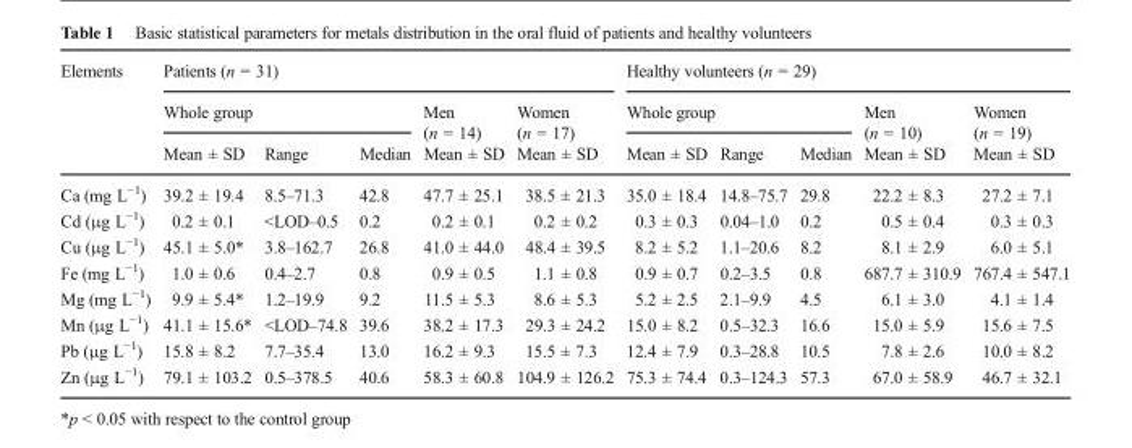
<table><thead><tr><td rowspan="3">Elements</td><td colspan="5">Patients (n = 31)</td><td colspan="5">Healthy volunteers (n = 29)</td></tr><tr><td colspan="3">Whole group</td><td rowspan="2">Men (n = 14) Mean ± SD</td><td rowspan="2">Women (n = 17) Mean ± SD</td><td colspan="3">Whole group</td><td rowspan="2">Men (n = 10) Mean ± SD</td><td rowspan="2">Women (n = 19) Mean ± SD</td></tr><tr><td>Mean ± SD</td><td>Range</td><td>Median</td><td>Mean ± SD</td><td>Range</td><td>Median</td></tr></thead><tbody><tr><td>Ca (mg L<sup>−1</sup>)</td><td>39.2 ± 19.4</td><td>8.5–71.3</td><td>42.8</td><td>47.7 ± 25.1</td><td>38.5 ± 21.3</td><td>35.0 ± 18.4</td><td>14.8–75.7</td><td>29.8</td><td>22.2 ± 8.3</td><td>27.2 ± 7.1</td></tr><tr><td>Cd (μg L<sup>−1</sup>)</td><td>0.2 ± 0.1</td><td>&lt;LOD–0.5</td><td>0.2</td><td>0.2 ± 0.1</td><td>0.2 ± 0.2</td><td>0.3 ± 0.3</td><td>0.04–1.0</td><td>0.2</td><td>0.5 ± 0.4</td><td>0.3 ± 0.3</td></tr><tr><td>Cu (μg L<sup>−1</sup>)</td><td>45.1 ± 5.0*</td><td>3.8–162.7</td><td>26.8</td><td>41.0 ± 44.0</td><td>48.4 ± 39.5</td><td>8.2 ± 5.2</td><td>1.1–20.6</td><td>8.2</td><td>8.1 ± 2.9</td><td>6.0 ± 5.1</td></tr><tr><td>Fe (mg L<sup>−1</sup>)</td><td>1.0 ± 0.6</td><td>0.4–2.7</td><td>0.8</td><td>0.9 ± 0.5</td><td>1.1 ± 0.8</td><td>0.9 ± 0.7</td><td>0.2–3.5</td><td>0.8</td><td>687.7 ± 310.9</td><td>767.4 ± 547.1</td></tr><tr><td>Mg (mg L<sup>−1</sup>)</td><td>9.9 ± 5.4*</td><td>1.2–19.9</td><td>9.2</td><td>11.5 ± 5.3</td><td>8.6 ± 5.3</td><td>5.2 ± 2.5</td><td>2.1–9.9</td><td>4.5</td><td>6.1 ± 3.0</td><td>4.1 ± 1.4</td></tr><tr><td>Mn (μg L<sup>−1</sup>)</td><td>41.1 ± 15.6*</td><td>&lt;LOD–74.8</td><td>39.6</td><td>38.2 ± 17.3</td><td>29.3 ± 24.2</td><td>15.0 ± 8.2</td><td>0.5–32.3</td><td>16.6</td><td>15.0 ± 5.9</td><td>15.6 ± 7.5</td></tr><tr><td>Pb (μg L<sup>−1</sup>)</td><td>15.8 ± 8.2</td><td>7.7–35.4</td><td>13.0</td><td>16.2 ± 9.3</td><td>15.5 ± 7.3</td><td>12.4 ± 7.9</td><td>0.3–28.8</td><td>10.5</td><td>7.8 ± 2.6</td><td>10.0 ± 8.2</td></tr><tr><td>Zn (μg L<sup>−1</sup>)</td><td>79.1 ± 103.2</td><td>0.5–378.5</td><td>40.6</td><td>58.3 ± 60.8</td><td>104.9 ± 126.2</td><td>75.3 ± 74.4</td><td>0.3–124.3</td><td>57.3</td><td>67.0 ± 58.9</td><td>46.7 ± 32.1</td></tr></tbody></table>